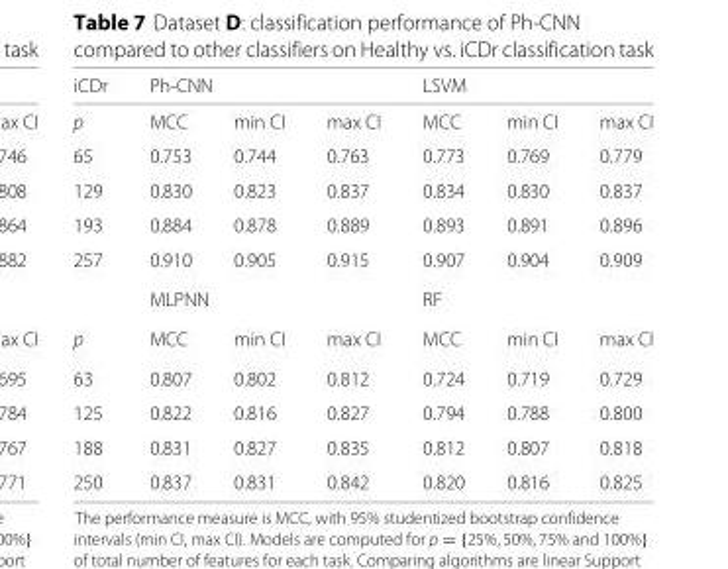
<table><thead><tr><td rowspan="2">iCDr p</td><td colspan="3">Ph-CNN</td><td colspan="3">LSVM</td></tr><tr><td>MCC</td><td>min CI</td><td>max CI</td><td>MCC</td><td>min CI</td><td>max CI</td></tr></thead><tbody><tr><td>65</td><td>0.753</td><td>0.744</td><td>0.763</td><td>0.773</td><td>0.769</td><td>0.779</td></tr><tr><td>129</td><td>0.830</td><td>0.823</td><td>0.837</td><td>0.834</td><td>0.830</td><td>0.837</td></tr><tr><td>193</td><td>0.884</td><td>0.878</td><td>0.889</td><td>0.893</td><td>0.891</td><td>0.896</td></tr><tr><td rowspan="2">257</td><td>0.910</td><td>0.905</td><td>0.915</td><td>0.907</td><td>0.904</td><td>0.909</td></tr><tr><td colspan="3">MLPNN</td><td colspan="3">RF</td></tr><tr><td>p</td><td>MCC</td><td>min CI</td><td>max CI</td><td>MCC</td><td>min CI</td><td>max CI</td></tr><tr><td>63</td><td>0.807</td><td>0.802</td><td>0.812</td><td>0.724</td><td>0.719</td><td>0.729</td></tr><tr><td>125</td><td>0.822</td><td>0.816</td><td>0.827</td><td>0.794</td><td>0.788</td><td>0.800</td></tr><tr><td>188</td><td>0.831</td><td>0.827</td><td>0.835</td><td>0.812</td><td>0.807</td><td>0.818</td></tr><tr><td>250</td><td>0.837</td><td>0.831</td><td>0.842</td><td>0.820</td><td>0.816</td><td>0.825</td></tr></tbody></table>